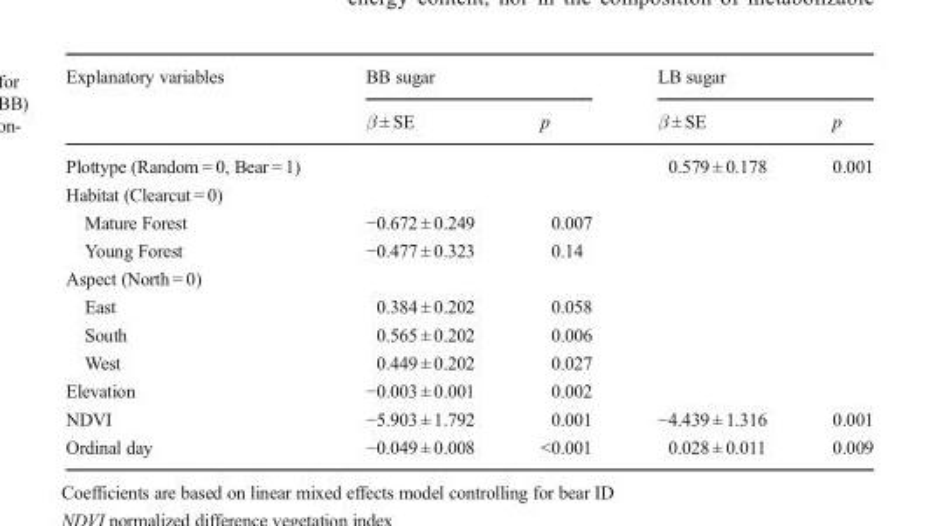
<table><thead><tr><td rowspan="2">Explanatory variables</td><td colspan="2">BB sugar</td><td colspan="2">LB sugar</td></tr><tr><td>β ± SE</td><td>p</td><td>β ± SE</td><td>p</td></tr></thead><tbody><tr><td>Plottype (Random = 0, Bear = 1)</td><td></td><td></td><td>0.579 ± 0.178</td><td>0.001</td></tr><tr><td colspan="5">Habitat (Clearcut = 0)</td></tr><tr><td>Mature Forest</td><td>−0.672 ± 0.249</td><td>0.007</td><td></td><td></td></tr><tr><td>Young Forest</td><td>−0.477 ± 0.323</td><td>0.14</td><td></td><td></td></tr><tr><td colspan="5">Aspect (North = 0)</td></tr><tr><td>East</td><td>0.384 ± 0.202</td><td>0.058</td><td></td><td></td></tr><tr><td>South</td><td>0.565 ± 0.202</td><td>0.006</td><td></td><td></td></tr><tr><td>West</td><td>0.449 ± 0.202</td><td>0.027</td><td></td><td></td></tr><tr><td>Elevation</td><td>−0.003 ± 0.001</td><td>0.002</td><td></td><td></td></tr><tr><td>NDVI</td><td>−5.903 ± 1.792</td><td>0.001</td><td>−4.439 ± 1.316</td><td>0.001</td></tr><tr><td>Ordinal day</td><td>−0.049 ± 0.008</td><td>&lt;0.001</td><td>0.028 ± 0.011</td><td>0.009</td></tr></tbody></table>